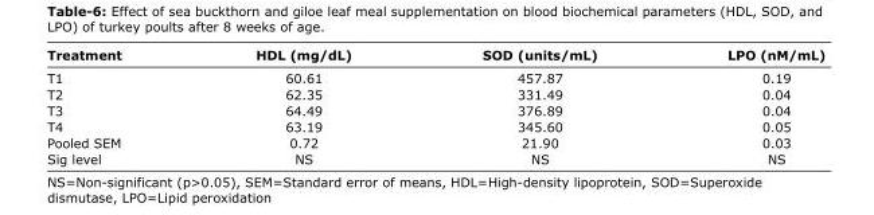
<table><thead><tr><td>Treatment</td><td>HDL (mg/dL)</td><td>SOD (units/mL)</td><td>LPO (nM/mL)</td></tr></thead><tbody><tr><td>T1</td><td>60.61</td><td>457.87</td><td>0.19</td></tr><tr><td>T2</td><td>62.35</td><td>331.49</td><td>0.04</td></tr><tr><td>T3</td><td>64.49</td><td>376.89</td><td>0.04</td></tr><tr><td>T4</td><td>63.19</td><td>345.60</td><td>0.05</td></tr><tr><td>Pooled SEM</td><td>0.72</td><td>21.90</td><td>0.03</td></tr><tr><td>Sig level</td><td>NS</td><td>NS</td><td>NS</td></tr></tbody></table>